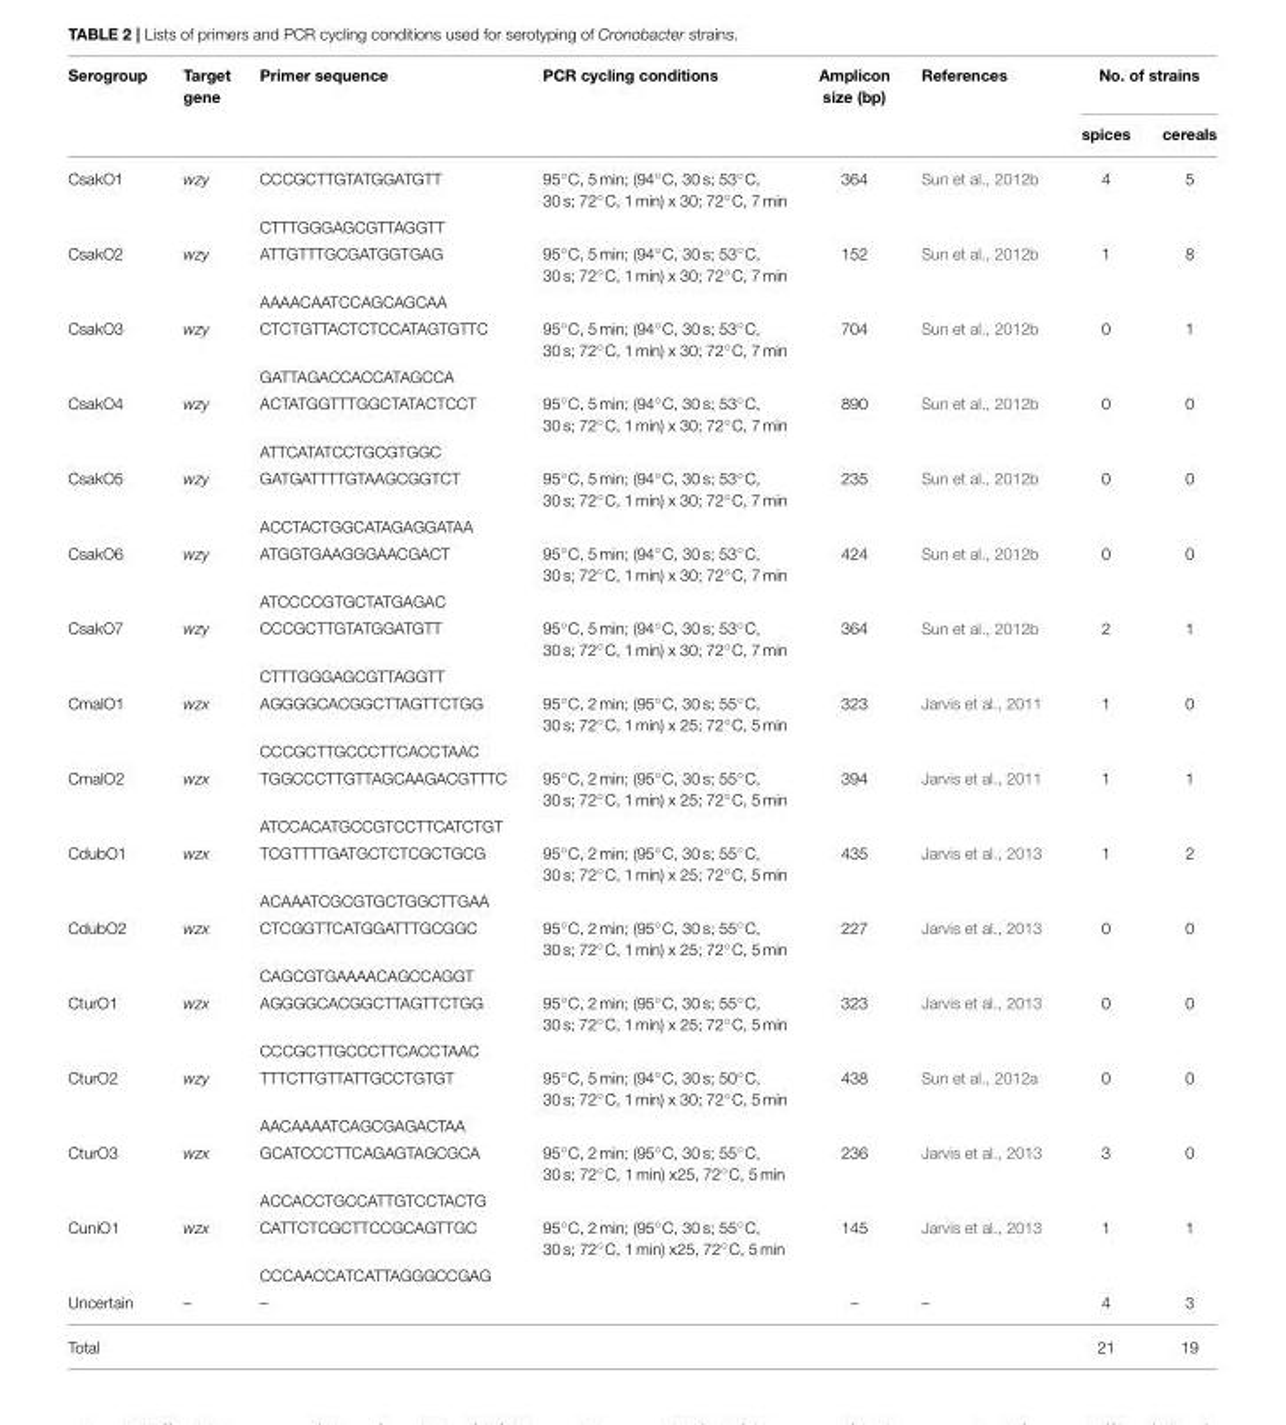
<table><thead><tr><td rowspan="2">Serogroup</td><td rowspan="2">Target gene</td><td rowspan="2">Primer sequence</td><td rowspan="2">PCR cycling conditions</td><td rowspan="2">Amplicon size (bp)</td><td rowspan="2">References</td><td colspan="2">No. of strains</td></tr><tr><td>spices</td><td>cereals</td></tr></thead><tbody><tr><td rowspan="2">CsakO1</td><td>wzy</td><td>CCCGCTTGTATGGATGTT</td><td>95◦C, 5 min; (94◦C, 30 s; 53◦C, 30 s; 72◦C, 1 min) x 30; 72◦C, 7 min</td><td>364</td><td>Sun et al., 2012b</td><td>4</td><td>5</td></tr><tr><td></td><td>CTTTGGGAGCGTTAGGTT</td><td></td><td></td><td></td><td></td><td></td></tr><tr><td rowspan="2">CsakO2</td><td>wzy</td><td>ATTGTTTGCGATGGTGAG</td><td>95◦C, 5 min; (94◦C, 30 s; 53◦C, 30 s; 72◦C, 1 min) x 30; 72◦C, 7 min</td><td>152</td><td>Sun et al., 2012b</td><td>1</td><td>8</td></tr><tr><td></td><td>AAAACAATCCAGCAGCAA</td><td></td><td></td><td></td><td></td><td></td></tr><tr><td rowspan="2">CsakO3</td><td>wzy</td><td>CTCTGTTACTCTCCATAGTGTTC</td><td>95◦C, 5 min; (94◦C, 30 s; 53◦C, 30 s; 72◦C, 1 min) x 30; 72◦C, 7 min</td><td>704</td><td>Sun et al., 2012b</td><td>0</td><td>1</td></tr><tr><td></td><td>GATTAGACCACCATAGCCA</td><td></td><td></td><td></td><td></td><td></td></tr><tr><td rowspan="2">CsakO4</td><td>wzy</td><td>ACTATGGTTTGGCTATACTCCT</td><td>95◦C, 5 min; (94◦C, 30 s; 53◦C, 30 s; 72◦C, 1 min) x 30; 72◦C, 7 min</td><td>890</td><td>Sun et al., 2012b</td><td>0</td><td>0</td></tr><tr><td></td><td>ATTCATATCCTGCGTGGC</td><td></td><td></td><td></td><td></td><td></td></tr><tr><td rowspan="2">CsakO5</td><td>wzy</td><td>GATGATTTTGTAAGCGGTCT</td><td>95◦C, 5 min; (94◦C, 30 s; 53◦C, 30 s; 72◦C, 1 min) x 30; 72◦C, 7 min</td><td>235</td><td>Sun et al., 2012b</td><td>0</td><td>0</td></tr><tr><td></td><td>ACCTACTGGCATAGAGGATAA</td><td></td><td></td><td></td><td></td><td></td></tr><tr><td rowspan="2">CsakO6</td><td>wzy</td><td>ATGGTGAAGGGAACGACT</td><td>95◦C, 5 min; (94◦C, 30 s; 53◦C, 30 s; 72◦C, 1 min) x 30; 72◦C, 7 min</td><td>424</td><td>Sun et al., 2012b</td><td>0</td><td>0</td></tr><tr><td></td><td>ATCCCCGTGCTATGAGAC</td><td></td><td></td><td></td><td></td><td></td></tr><tr><td rowspan="2">CsakO7</td><td>wzy</td><td>CCCGCTTGTATGGATGTT</td><td>95◦C, 5 min; (94◦C, 30 s; 53◦C, 30 s; 72◦C, 1 min) x 30; 72◦C, 7 min</td><td>364</td><td>Sun et al., 2012b</td><td>2</td><td>1</td></tr><tr><td></td><td>CTTTGGGAGCGTTAGGTT</td><td></td><td></td><td></td><td></td><td></td></tr><tr><td rowspan="2">CmalO1</td><td>wzx</td><td>AGGGGCACGGCTTAGTTCTGG</td><td>95◦C, 2 min; (95◦C, 30 s; 55◦C, 30 s; 72◦C, 1 min) x 25; 72◦C, 5 min</td><td>323</td><td>Jarvis et al., 2011</td><td>1</td><td>0</td></tr><tr><td></td><td>CCCGCTTGCCCTTCACCTAAC</td><td></td><td></td><td></td><td></td><td></td></tr><tr><td rowspan="2">CmalO2</td><td>wzx</td><td>TGGCCCTTGTTAGCAAGACGTTTC</td><td>95◦C, 2 min; (95◦C, 30 s; 55◦C, 30 s; 72◦C, 1 min) x 25; 72◦C, 5 min</td><td>394</td><td>Jarvis et al., 2011</td><td>1</td><td>1</td></tr><tr><td></td><td>ATCCACATGCCGTCCTTCATCTGT</td><td></td><td></td><td></td><td></td><td></td></tr><tr><td rowspan="2">CdubO1</td><td>wzx</td><td>TCGTTTTGATGCTCTCGCTGCG</td><td>95◦C, 2 min; (95◦C, 30 s; 55◦C, 30 s; 72◦C, 1 min) x 25; 72◦C, 5 min</td><td>435</td><td>Jarvis et al., 2013</td><td>1</td><td>2</td></tr><tr><td></td><td>ACAAATCGCGTGCTGGCTTGAA</td><td></td><td></td><td></td><td></td><td></td></tr><tr><td rowspan="2">CdubO2</td><td>wzx</td><td>CTCGGTTCATGGATTTGCGGC</td><td>95◦C, 2 min; (95◦C, 30 s; 55◦C, 30 s; 72◦C, 1 min) x 25; 72◦C, 5 min</td><td>227</td><td>Jarvis et al., 2013</td><td>0</td><td>0</td></tr><tr><td></td><td>CAGCGTGAAAACAGCCAGGT</td><td></td><td></td><td></td><td></td><td></td></tr><tr><td rowspan="2">CturO1</td><td>wzx</td><td>AGGGGCACGGCTTAGTTCTGG</td><td>95◦C, 2 min; (95◦C, 30 s; 55◦C, 30 s; 72◦C, 1 min) x 25; 72◦C, 5 min</td><td>323</td><td>Jarvis et al., 2013</td><td>0</td><td>0</td></tr><tr><td></td><td>CCCGCTTGCCCTTCACCTAAC</td><td></td><td></td><td></td><td></td><td></td></tr><tr><td rowspan="2">CturO2</td><td>wzy</td><td>TTTCTTGTTATTGCCTGTGT</td><td>95◦C, 5 min; (94◦C, 30 s; 50◦C, 30 s; 72◦C, 1 min) x 30; 72◦C, 5 min</td><td>438</td><td>Sun et al., 2012a</td><td>0</td><td>0</td></tr><tr><td></td><td>AACAAAATCAGCGAGACTAA</td><td></td><td></td><td></td><td></td><td></td></tr><tr><td rowspan="2">CturO3</td><td>wzx</td><td>GCATCCCTTCAGAGTAGCGCA</td><td>95◦C, 2 min; (95◦C, 30 s; 55◦C, 30 s; 72◦C, 1 min) x25, 72◦C, 5 min</td><td>236</td><td>Jarvis et al., 2013</td><td>3</td><td>0</td></tr><tr><td></td><td>ACCACCTGCCATTGTCCTACTG</td><td></td><td></td><td></td><td></td><td></td></tr><tr><td rowspan="2">CuniO1</td><td>wzx</td><td>CATTCTCGCTTCCGCAGTTGC</td><td>95◦C, 2 min; (95◦C, 30 s; 55◦C, 30 s; 72◦C, 1 min) x25, 72◦C, 5 min</td><td>145</td><td>Jarvis et al., 2013</td><td>1</td><td>1</td></tr><tr><td></td><td>CCCAACCATCATTAGGGCCGAG</td><td></td><td></td><td></td><td></td><td></td></tr><tr><td>Uncertain</td><td>–</td><td>–</td><td></td><td>–</td><td>–</td><td>4</td><td>3</td></tr><tr><td>Total</td><td></td><td></td><td></td><td></td><td></td><td>21</td><td>19</td></tr></tbody></table>